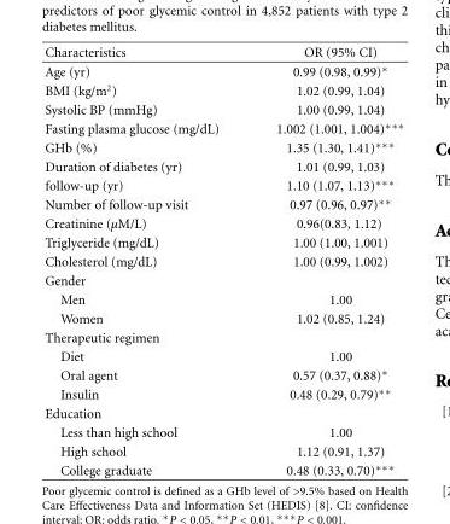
<table><thead><tr><td>Characteristics</td><td>OR (95% CI)</td></tr></thead><tbody><tr><td>Age (yr)</td><td>0.99 (0.98, 0.99)∗</td></tr><tr><td>BMI (kg/m<sup>2</sup>)</td><td>1.02 (0.99, 1.04)</td></tr><tr><td>Systolic BP (mmHg)</td><td>1.00 (0.99, 1.04)</td></tr><tr><td>Fasting plasma glucose (mg/dL)</td><td>1.002 (1.001, 1.004)∗∗∗</td></tr><tr><td>GHb (%)</td><td>1.35 (1.30, 1.41)∗∗∗</td></tr><tr><td>Duration of diabetes (yr)</td><td>1.01 (0.99, 1.03)</td></tr><tr><td>follow-up (yr)</td><td>1.10 (1.07, 1.13)∗∗∗</td></tr><tr><td>Number of follow-up visit</td><td>0.97 (0.96, 0.97)∗∗</td></tr><tr><td>Creatinine (μM/L)</td><td>0.96(0.83, 1.12)</td></tr><tr><td>Triglyceride (mg/dL)</td><td>1.00 (1.00, 1.001)</td></tr><tr><td>Cholesterol (mg/dL)</td><td>1.00 (0.99, 1.002)</td></tr><tr><td colspan="2">Gender</td></tr><tr><td>Men</td><td>1.00</td></tr><tr><td>Women</td><td>1.02 (0.85, 1.24)</td></tr><tr><td colspan="2">Therapeutic regimen</td></tr><tr><td>Diet</td><td>1.00</td></tr><tr><td>Oral agent</td><td>0.57 (0.37, 0.88)∗</td></tr><tr><td>Insulin</td><td>0.48 (0.29, 0.79)∗∗</td></tr><tr><td colspan="2">Education</td></tr><tr><td>Less than high school</td><td>1.00</td></tr><tr><td>High school</td><td>1.12 (0.91, 1.37)</td></tr><tr><td>College graduate</td><td>0.48 (0.33, 0.70)∗∗∗</td></tr></tbody></table>